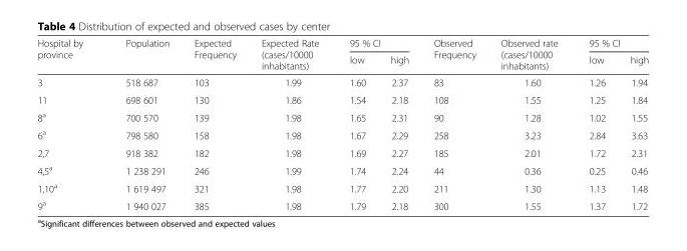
<table><thead><tr><td rowspan="2">Hospital by province</td><td rowspan="2">Population</td><td rowspan="2">Expected Frequency</td><td rowspan="2">Expected Rate (cases/10000 inhabitants)</td><td colspan="2">95 % CI</td><td rowspan="2">Observed Frequency</td><td rowspan="2">Observed rate (cases/10000 inhabitants)</td><td colspan="2">95 % CI</td></tr><tr><td>low</td><td>high</td><td>low</td><td>high</td></tr></thead><tbody><tr><td>3</td><td>518 687</td><td>103</td><td>1.99</td><td>1.60</td><td>2.37</td><td>83</td><td>1.60</td><td>1.26</td><td>1.94</td></tr><tr><td>11</td><td>698 601</td><td>130</td><td>1.86</td><td>1.54</td><td>2.18</td><td>108</td><td>1.55</td><td>1.25</td><td>1.84</td></tr><tr><td>8<sup>a</sup></td><td>700 570</td><td>139</td><td>1.98</td><td>1.65</td><td>2.31</td><td>90</td><td>1.28</td><td>1.02</td><td>1.55</td></tr><tr><td>6<sup>a</sup></td><td>798 580</td><td>158</td><td>1.98</td><td>1.67</td><td>2.29</td><td>258</td><td>3.23</td><td>2.84</td><td>3.63</td></tr><tr><td>2,7</td><td>918 382</td><td>182</td><td>1.98</td><td>1.69</td><td>2.27</td><td>185</td><td>2.01</td><td>1.72</td><td>2.31</td></tr><tr><td>4,5<sup>a</sup></td><td>1 238 291</td><td>246</td><td>1.99</td><td>1.74</td><td>2.24</td><td>44</td><td>0.36</td><td>0.25</td><td>0.46</td></tr><tr><td>1,10<sup>a</sup></td><td>1 619 497</td><td>321</td><td>1.98</td><td>1.77</td><td>2.20</td><td>211</td><td>1.30</td><td>1.13</td><td>1.48</td></tr><tr><td>9<sup>a</sup></td><td>1 940 027</td><td>385</td><td>1.98</td><td>1.79</td><td>2.18</td><td>300</td><td>1.55</td><td>1.37</td><td>1.72</td></tr></tbody></table>